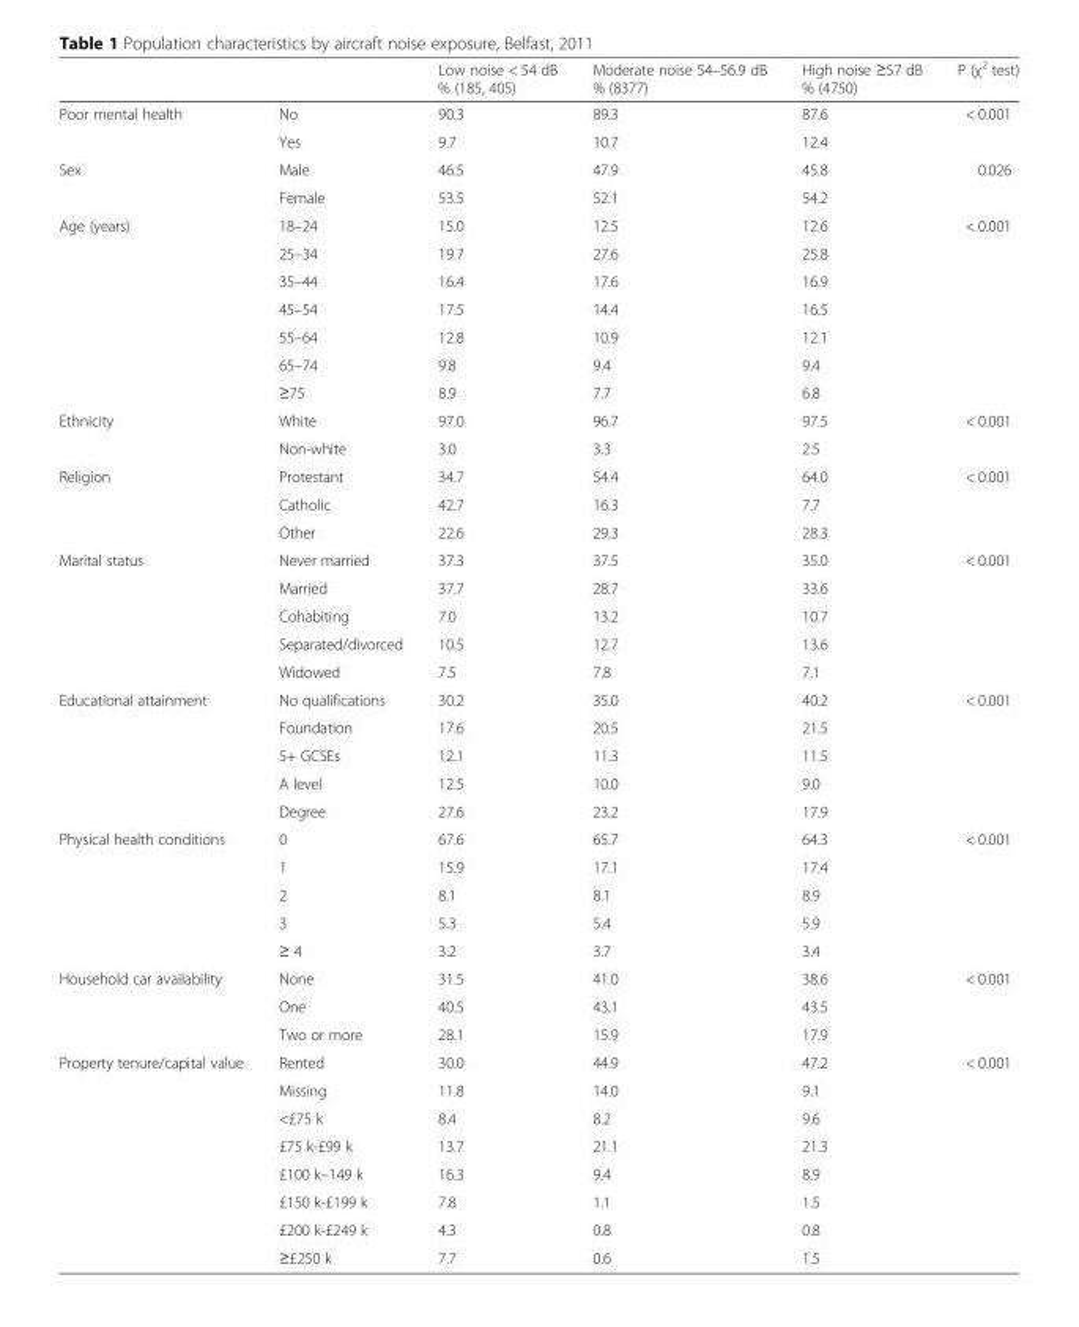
<table><thead><tr><td></td><td></td><td>Low noise &lt; 54 dB % (185, 405)</td><td>Moderate noise 54–56.9 dB % (8377)</td><td>High noise ≥57 dB % (4750)</td><td>P (χ<sup>2</sup> test)</td></tr></thead><tbody><tr><td rowspan="2">Poor mental health</td><td>No</td><td>90.3</td><td>89.3</td><td>87.6</td><td>&lt; 0.001</td></tr><tr><td>Yes</td><td>9.7</td><td>10.7</td><td>12.4</td><td></td></tr><tr><td rowspan="2">Sex</td><td>Male</td><td>46.5</td><td>47.9</td><td>45.8</td><td>0.026</td></tr><tr><td>Female</td><td>53.5</td><td>52.1</td><td>54.2</td><td></td></tr><tr><td rowspan="7">Age (years)</td><td>18–24</td><td>15.0</td><td>12.5</td><td>12.6</td><td>&lt; 0.001</td></tr><tr><td>25–34</td><td>19.7</td><td>27.6</td><td>25.8</td><td></td></tr><tr><td>35–44</td><td>16.4</td><td>17.6</td><td>16.9</td><td></td></tr><tr><td>45–54</td><td>17.5</td><td>14.4</td><td>16.5</td><td></td></tr><tr><td>55–64</td><td>12.8</td><td>10.9</td><td>12.1</td><td></td></tr><tr><td>65–74</td><td>9.8</td><td>9.4</td><td>9.4</td><td></td></tr><tr><td>≥75</td><td>8.9</td><td>7.7</td><td>6.8</td><td></td></tr><tr><td rowspan="2">Ethnicity</td><td>White</td><td>97.0</td><td>96.7</td><td>97.5</td><td>&lt; 0.001</td></tr><tr><td>Non-white</td><td>3.0</td><td>3.3</td><td>2.5</td><td></td></tr><tr><td rowspan="3">Religion</td><td>Protestant</td><td>34.7</td><td>54.4</td><td>64.0</td><td>&lt; 0.001</td></tr><tr><td>Catholic</td><td>42.7</td><td>16.3</td><td>7.7</td><td></td></tr><tr><td>Other</td><td>22.6</td><td>29.3</td><td>28.3</td><td></td></tr><tr><td rowspan="5">Marital status</td><td>Never married</td><td>37.3</td><td>37.5</td><td>35.0</td><td>&lt; 0.001</td></tr><tr><td>Married</td><td>37.7</td><td>28.7</td><td>33.6</td><td></td></tr><tr><td>Cohabiting</td><td>7.0</td><td>13.2</td><td>10.7</td><td></td></tr><tr><td>Separated/divorced</td><td>10.5</td><td>12.7</td><td>13.6</td><td></td></tr><tr><td>Widowed</td><td>7.5</td><td>7.8</td><td>7.1</td><td></td></tr><tr><td rowspan="5">Educational attainment</td><td>No qualifications</td><td>30.2</td><td>35.0</td><td>40.2</td><td>&lt; 0.001</td></tr><tr><td>Foundation</td><td>17.6</td><td>20.5</td><td>21.5</td><td></td></tr><tr><td>5+ GCSEs</td><td>12.1</td><td>11.3</td><td>11.5</td><td></td></tr><tr><td>A level</td><td>12.5</td><td>10.0</td><td>9.0</td><td></td></tr><tr><td>Degree</td><td>27.6</td><td>23.2</td><td>17.9</td><td></td></tr><tr><td rowspan="5">Physical health conditions</td><td>0</td><td>67.6</td><td>65.7</td><td>64.3</td><td>&lt; 0.001</td></tr><tr><td>1</td><td>15.9</td><td>17.1</td><td>17.4</td><td></td></tr><tr><td>2</td><td>8.1</td><td>8.1</td><td>8.9</td><td></td></tr><tr><td>3</td><td>5.3</td><td>5.4</td><td>5.9</td><td></td></tr><tr><td>≥ 4</td><td>3.2</td><td>3.7</td><td>3.4</td><td></td></tr><tr><td rowspan="3">Household car availability</td><td>None</td><td>31.5</td><td>41.0</td><td>38.6</td><td>&lt; 0.001</td></tr><tr><td>One</td><td>40.5</td><td>43.1</td><td>43.5</td><td></td></tr><tr><td>Two or more</td><td>28.1</td><td>15.9</td><td>17.9</td><td></td></tr><tr><td rowspan="8">Property tenure/capital value</td><td>Rented</td><td>30.0</td><td>44.9</td><td>47.2</td><td>&lt; 0.001</td></tr><tr><td>Missing</td><td>11.8</td><td>14.0</td><td>9.1</td><td></td></tr><tr><td>&lt;£75 k</td><td>8.4</td><td>8.2</td><td>9.6</td><td></td></tr><tr><td>£75 k-£99 k</td><td>13.7</td><td>21.1</td><td>21.3</td><td></td></tr><tr><td>£100 k–149 k</td><td>16.3</td><td>9.4</td><td>8.9</td><td></td></tr><tr><td>£150 k-£199 k</td><td>7.8</td><td>1.1</td><td>1.5</td><td></td></tr><tr><td>£200 k-£249 k</td><td>4.3</td><td>0.8</td><td>0.8</td><td></td></tr><tr><td>≥£250 k</td><td>7.7</td><td>0.6</td><td>1.5</td><td></td></tr></tbody></table>